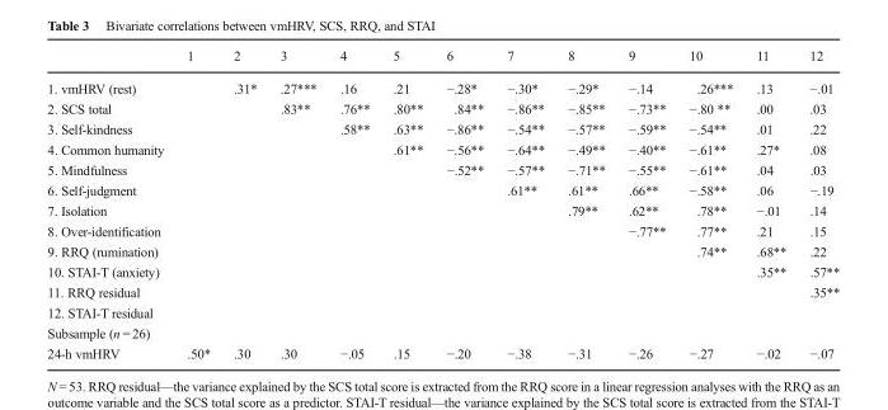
<table><thead><tr><td></td><td>1</td><td>2</td><td>3</td><td>4</td><td>5</td><td>6</td><td>7</td><td>8</td><td>9</td><td>10</td><td>11</td><td>12</td></tr></thead><tbody><tr><td>1. vmHRV (rest)</td><td></td><td>.31*</td><td>.27***</td><td>.16</td><td>.21</td><td>−.28*</td><td>−.30*</td><td>−.29*</td><td>−.14</td><td>.26***</td><td>.13</td><td>−.01</td></tr><tr><td>2. SCS total</td><td></td><td></td><td>.83**</td><td>.76**</td><td>.80**</td><td>.84**</td><td>−.86**</td><td>−.85**</td><td>−.73**</td><td>−.80 **</td><td>.00</td><td>.03</td></tr><tr><td>3. Self-kindness</td><td></td><td></td><td></td><td>.58**</td><td>.63**</td><td>−.86**</td><td>−.54**</td><td>−.57**</td><td>−.59**</td><td>−.54**</td><td>.01</td><td>.22</td></tr><tr><td>4. Common humanity</td><td></td><td></td><td></td><td></td><td>.61**</td><td>−.56**</td><td>−.64**</td><td>−.49**</td><td>−.40**</td><td>−.61**</td><td>.27*</td><td>.08</td></tr><tr><td>5. Mindfulness</td><td></td><td></td><td></td><td></td><td></td><td>−.52**</td><td>−.57**</td><td>−.71**</td><td>−.55**</td><td>−.61**</td><td>.04</td><td>.03</td></tr><tr><td>6. Self-judgment</td><td></td><td></td><td></td><td></td><td></td><td></td><td>.61**</td><td>.61**</td><td>.66**</td><td>−.58**</td><td>.06</td><td>−.19</td></tr><tr><td>7. Isolation</td><td></td><td></td><td></td><td></td><td></td><td></td><td></td><td>.79**</td><td>.62**</td><td>.78**</td><td>−.01</td><td>.14</td></tr><tr><td>8. Over-identification</td><td></td><td></td><td></td><td></td><td></td><td></td><td></td><td></td><td>−.77**</td><td>.77**</td><td>.21</td><td>.15</td></tr><tr><td>9. RRQ (rumination)</td><td></td><td></td><td></td><td></td><td></td><td></td><td></td><td></td><td></td><td>.74**</td><td>.68**</td><td>.22</td></tr><tr><td>10. STAI-T (anxiety)</td><td></td><td></td><td></td><td></td><td></td><td></td><td></td><td></td><td></td><td></td><td>.35**</td><td>.57**</td></tr><tr><td>11. RRQ residual</td><td></td><td></td><td></td><td></td><td></td><td></td><td></td><td></td><td></td><td></td><td></td><td>.35**</td></tr><tr><td colspan="13">12. STAI-T residual</td></tr><tr><td colspan="13">Subsample (n = 26)</td></tr><tr><td>24-h vmHRV</td><td>.50*</td><td>.30</td><td>.30</td><td>−.05</td><td>.15</td><td>−.20</td><td>−.38</td><td>−.31</td><td>−.26</td><td>−.27</td><td>−.02</td><td>−.07</td></tr></tbody></table>